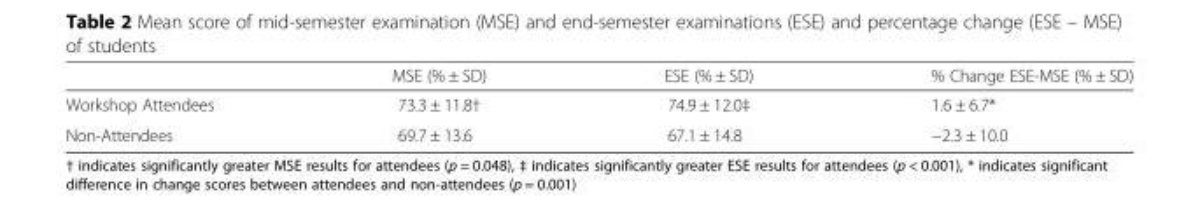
<table><thead><tr><td></td><td>MSE (% ± SD)</td><td>ESE (% ± SD)</td><td>% Change ESE-MSE (% ± SD)</td></tr></thead><tbody><tr><td>Workshop Attendees</td><td>73.3 ± 11.8†</td><td>74.9 ± 12.0‡</td><td>1.6 ± 6.7*</td></tr><tr><td>Non-Attendees</td><td>69.7 ± 13.6</td><td>67.1 ± 14.8</td><td>−2.3 ± 10.0</td></tr></tbody></table>